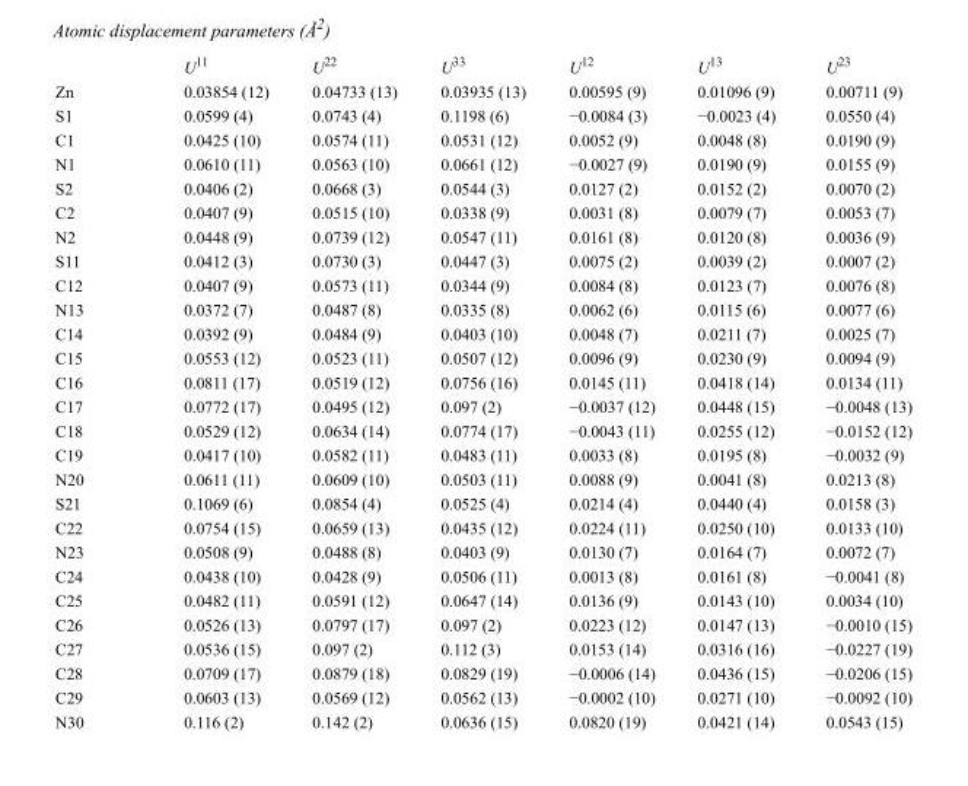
<table><thead><tr><td></td><td>U<sup>11</sup></td><td>U<sup>22</sup></td><td>U<sup>33</sup></td><td>U<sup>12</sup></td><td>U<sup>13</sup></td><td>U<sup>23</sup></td></tr></thead><tbody><tr><td>Zn</td><td>0.03854 (12)</td><td>0.04733 (13)</td><td>0.03935 (13)</td><td>0.00595 (9)</td><td>0.01096 (9)</td><td>0.00711 (9)</td></tr><tr><td>S1</td><td>0.0599 (4)</td><td>0.0743 (4)</td><td>0.1198 (6)</td><td>−0.0084 (3)</td><td>−0.0023 (4)</td><td>0.0550 (4)</td></tr><tr><td>C1</td><td>0.0425 (10)</td><td>0.0574 (11)</td><td>0.0531 (12)</td><td>0.0052 (9)</td><td>0.0048 (8)</td><td>0.0190 (9)</td></tr><tr><td>N1</td><td>0.0610 (11)</td><td>0.0563 (10)</td><td>0.0661 (12)</td><td>−0.0027 (9)</td><td>0.0190 (9)</td><td>0.0155 (9)</td></tr><tr><td>S2</td><td>0.0406 (2)</td><td>0.0668 (3)</td><td>0.0544 (3)</td><td>0.0127 (2)</td><td>0.0152 (2)</td><td>0.0070 (2)</td></tr><tr><td>C2</td><td>0.0407 (9)</td><td>0.0515 (10)</td><td>0.0338 (9)</td><td>0.0031 (8)</td><td>0.0079 (7)</td><td>0.0053 (7)</td></tr><tr><td>N2</td><td>0.0448 (9)</td><td>0.0739 (12)</td><td>0.0547 (11)</td><td>0.0161 (8)</td><td>0.0120 (8)</td><td>0.0036 (9)</td></tr><tr><td>S11</td><td>0.0412 (3)</td><td>0.0730 (3)</td><td>0.0447 (3)</td><td>0.0075 (2)</td><td>0.0039 (2)</td><td>0.0007 (2)</td></tr><tr><td>C12</td><td>0.0407 (9)</td><td>0.0573 (11)</td><td>0.0344 (9)</td><td>0.0084 (8)</td><td>0.0123 (7)</td><td>0.0076 (8)</td></tr><tr><td>N13</td><td>0.0372 (7)</td><td>0.0487 (8)</td><td>0.0335 (8)</td><td>0.0062 (6)</td><td>0.0115 (6)</td><td>0.0077 (6)</td></tr><tr><td>C14</td><td>0.0392 (9)</td><td>0.0484 (9)</td><td>0.0403 (10)</td><td>0.0048 (7)</td><td>0.0211 (7)</td><td>0.0025 (7)</td></tr><tr><td>C15</td><td>0.0553 (12)</td><td>0.0523 (11)</td><td>0.0507 (12)</td><td>0.0096 (9)</td><td>0.0230 (9)</td><td>0.0094 (9)</td></tr><tr><td>C16</td><td>0.0811 (17)</td><td>0.0519 (12)</td><td>0.0756 (16)</td><td>0.0145 (11)</td><td>0.0418 (14)</td><td>0.0134 (11)</td></tr><tr><td>C17</td><td>0.0772 (17)</td><td>0.0495 (12)</td><td>0.097 (2)</td><td>−0.0037 (12)</td><td>0.0448 (15)</td><td>−0.0048 (13)</td></tr><tr><td>C18</td><td>0.0529 (12)</td><td>0.0634 (14)</td><td>0.0774 (17)</td><td>−0.0043 (11)</td><td>0.0255 (12)</td><td>−0.0152 (12)</td></tr><tr><td>C19</td><td>0.0417 (10)</td><td>0.0582 (11)</td><td>0.0483 (11)</td><td>0.0033 (8)</td><td>0.0195 (8)</td><td>−0.0032 (9)</td></tr><tr><td>N20</td><td>0.0611 (11)</td><td>0.0609 (10)</td><td>0.0503 (11)</td><td>0.0088 (9)</td><td>0.0041 (8)</td><td>0.0213 (8)</td></tr><tr><td>S21</td><td>0.1069 (6)</td><td>0.0854 (4)</td><td>0.0525 (4)</td><td>0.0214 (4)</td><td>0.0440 (4)</td><td>0.0158 (3)</td></tr><tr><td>C22</td><td>0.0754 (15)</td><td>0.0659 (13)</td><td>0.0435 (12)</td><td>0.0224 (11)</td><td>0.0250 (10)</td><td>0.0133 (10)</td></tr><tr><td>N23</td><td>0.0508 (9)</td><td>0.0488 (8)</td><td>0.0403 (9)</td><td>0.0130 (7)</td><td>0.0164 (7)</td><td>0.0072 (7)</td></tr><tr><td>C24</td><td>0.0438 (10)</td><td>0.0428 (9)</td><td>0.0506 (11)</td><td>0.0013 (8)</td><td>0.0161 (8)</td><td>−0.0041 (8)</td></tr><tr><td>C25</td><td>0.0482 (11)</td><td>0.0591 (12)</td><td>0.0647 (14)</td><td>0.0136 (9)</td><td>0.0143 (10)</td><td>0.0034 (10)</td></tr><tr><td>C26</td><td>0.0526 (13)</td><td>0.0797 (17)</td><td>0.097 (2)</td><td>0.0223 (12)</td><td>0.0147 (13)</td><td>−0.0010 (15)</td></tr><tr><td>C27</td><td>0.0536 (15)</td><td>0.097 (2)</td><td>0.112 (3)</td><td>0.0153 (14)</td><td>0.0316 (16)</td><td>−0.0227 (19)</td></tr><tr><td>C28</td><td>0.0709 (17)</td><td>0.0879 (18)</td><td>0.0829 (19)</td><td>−0.0006 (14)</td><td>0.0436 (15)</td><td>−0.0206 (15)</td></tr><tr><td>C29</td><td>0.0603 (13)</td><td>0.0569 (12)</td><td>0.0562 (13)</td><td>−0.0002 (10)</td><td>0.0271 (10)</td><td>−0.0092 (10)</td></tr><tr><td>N30</td><td>0.116 (2)</td><td>0.142 (2)</td><td>0.0636 (15)</td><td>0.0820 (19)</td><td>0.0421 (14)</td><td>0.0543 (15)</td></tr></tbody></table>